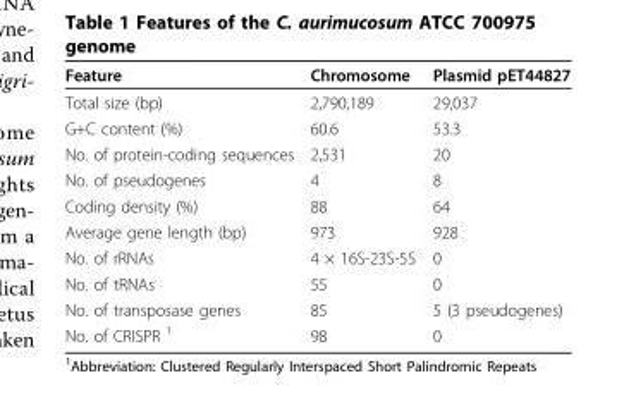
<table><thead><tr><td>Feature</td><td>Chromosome</td><td>Plasmid pET44827</td></tr></thead><tbody><tr><td>Total size (bp)</td><td>2,790,189</td><td>29,037</td></tr><tr><td>G+C content (%)</td><td>60.6</td><td>53.3</td></tr><tr><td>No. of protein-coding sequences</td><td>2,531</td><td>20</td></tr><tr><td>No. of pseudogenes</td><td>4</td><td>8</td></tr><tr><td>Coding density (%)</td><td>88</td><td>64</td></tr><tr><td>Average gene length (bp)</td><td>973</td><td>928</td></tr><tr><td>No. of rRNAs</td><td>4 × 16S-23S-5S</td><td>0</td></tr><tr><td>No. of tRNAs</td><td>55</td><td>0</td></tr><tr><td>No. of transposase genes</td><td>85</td><td>5 (3 pseudogenes)</td></tr><tr><td>No. of CRISPR <sup>1</sup></td><td>98</td><td>0</td></tr></tbody></table>